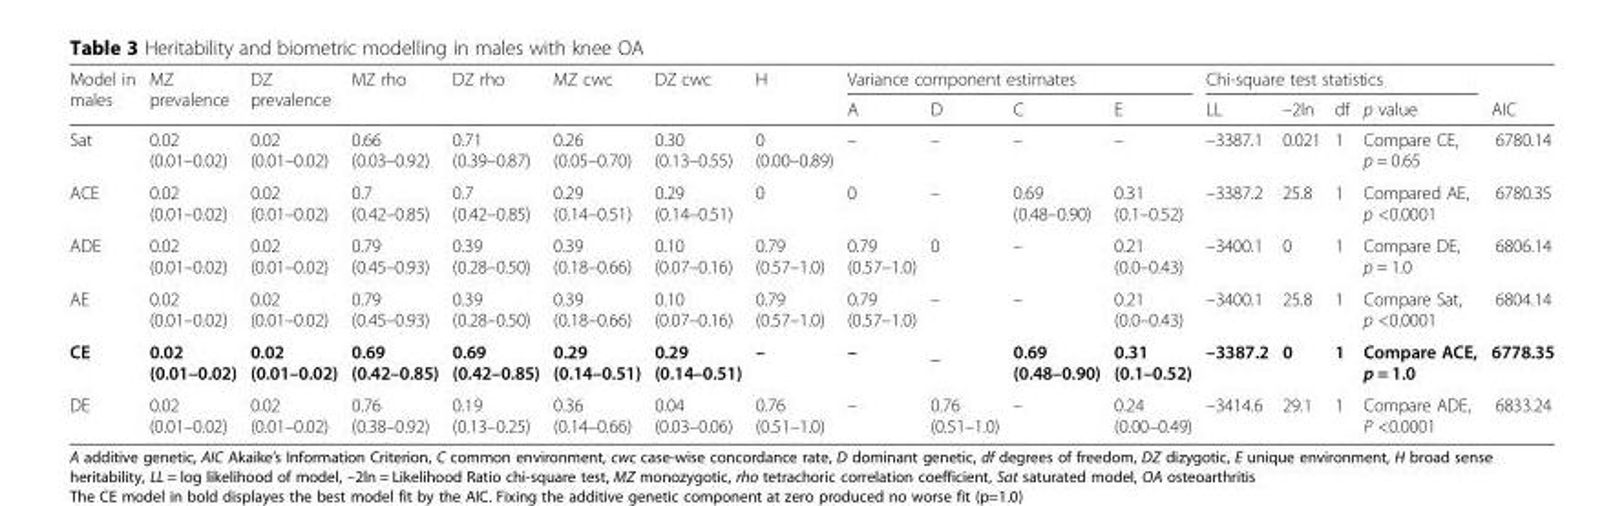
<table><thead><tr><td rowspan="2">Model in males</td><td rowspan="2">MZ prevalence</td><td rowspan="2">DZ prevalence</td><td rowspan="2">MZ rho</td><td rowspan="2">DZ rho</td><td rowspan="2">MZ cwc</td><td rowspan="2">DZ cwc</td><td rowspan="2">H</td><td colspan="4">Variance component estimates</td><td colspan="4">Chi-square test statistics</td><td rowspan="2">AIC</td></tr><tr><td>A</td><td>D</td><td>C</td><td>E</td><td>LL</td><td>–2ln</td><td>df</td><td>p value</td></tr></thead><tbody><tr><td>Sat</td><td>0.02 (0.01–0.02)</td><td>0.02 (0.01–0.02)</td><td>0.66 (0.03–0.92)</td><td>0.71 (0.39–0.87)</td><td>0.26 (0.05–0.70)</td><td>0.30 (0.13–0.55)</td><td>0 (0.00–0.89)</td><td>–</td><td>–</td><td>–</td><td>–</td><td>–3387.1</td><td>0.021</td><td>1</td><td>Compare CE, p = 0.65</td><td>6780.14</td></tr><tr><td>ACE</td><td>0.02 (0.01–0.02)</td><td>0.02 (0.01–0.02)</td><td>0.7 (0.42–0.85)</td><td>0.7 (0.42–0.85)</td><td>0.29 (0.14–0.51)</td><td>0.29 (0.14–0.51)</td><td>0</td><td>0</td><td>–</td><td>0.69 (0.48–0.90)</td><td>0.31 (0.1–0.52)</td><td>–3387.2</td><td>25.8</td><td>1</td><td>Compared AE, p &lt;0.0001</td><td>6780.35</td></tr><tr><td>ADE</td><td>0.02 (0.01–0.02)</td><td>0.02 (0.01–0.02)</td><td>0.79 (0.45–0.93)</td><td>0.39 (0.28–0.50)</td><td>0.39 (0.18–0.66)</td><td>0.10 (0.07–0.16)</td><td>0.79 (0.57–1.0)</td><td>0.79 (0.57–1.0)</td><td>0</td><td>–</td><td>0.21 (0.0–0.43)</td><td>–3400.1</td><td>0</td><td>1</td><td>Compare DE, p = 1.0</td><td>6806.14</td></tr><tr><td>AE</td><td>0.02 (0.01–0.02)</td><td>0.02 (0.01–0.02)</td><td>0.79 (0.45–0.93)</td><td>0.39 (0.28–0.50)</td><td>0.39 (0.18–0.66)</td><td>0.10 (0.07–0.16)</td><td>0.79 (0.57–1.0)</td><td>0.79 (0.57–1.0)</td><td>–</td><td>–</td><td>0.21 (0.0–0.43)</td><td>–3400.1</td><td>25.8</td><td>1</td><td>Compare Sat, p &lt;0.0001</td><td>6804.14</td></tr><tr><td>CE</td><td>0.02 (0.01–0.02)</td><td>0.02 (0.01–0.02)</td><td>0.69 (0.42–0.85)</td><td>0.69 (0.42–0.85)</td><td>0.29 (0.14–0.51)</td><td>0.29 (0.14–0.51)</td><td>–</td><td>–</td><td>_</td><td>0.69 (0.48–0.90)</td><td>0.31 (0.1–0.52)</td><td>–3387.2</td><td>0</td><td>1</td><td>Compare ACE, p = 1.0</td><td>6778.35</td></tr><tr><td>DE</td><td>0.02 (0.01–0.02)</td><td>0.02 (0.01–0.02)</td><td>0.76 (0.38–0.92)</td><td>0.19 (0.13–0.25)</td><td>0.36 (0.14–0.66)</td><td>0.04 (0.03–0.06)</td><td>0.76 (0.51–1.0)</td><td>–</td><td>0.76 (0.51–1.0)</td><td>–</td><td>0.24 (0.00–0.49)</td><td>–3414.6</td><td>29.1</td><td>1</td><td>Compare ADE, P &lt;0.0001</td><td>6833.24</td></tr></tbody></table>